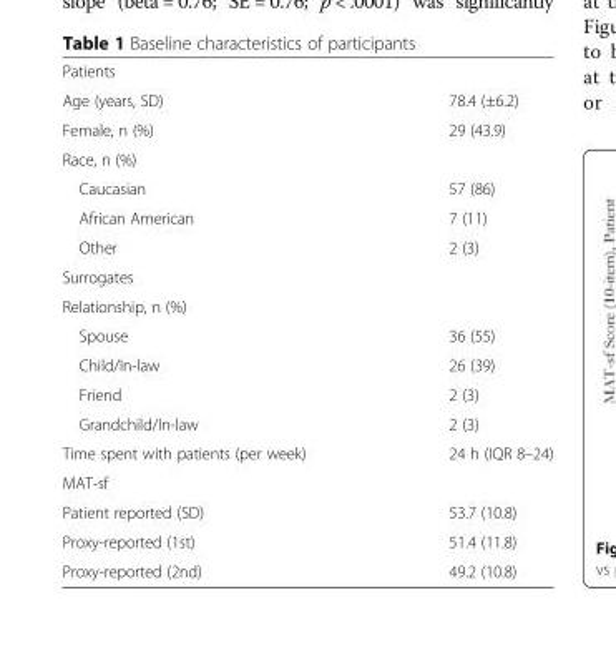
<table><tbody><tr><td colspan="2">Patients</td></tr><tr><td>Age (years, SD)</td><td>78.4 (±6.2)</td></tr><tr><td>Female, n (%)</td><td>29 (43.9)</td></tr><tr><td colspan="2">Race, n (%)</td></tr><tr><td>Caucasian</td><td>57 (86)</td></tr><tr><td>African American</td><td>7 (11)</td></tr><tr><td>Other</td><td>2 (3)</td></tr><tr><td colspan="2">Surrogates</td></tr><tr><td colspan="2">Relationship, n (%)</td></tr><tr><td>Spouse</td><td>36 (55)</td></tr><tr><td>Child/In-law</td><td>26 (39)</td></tr><tr><td>Friend</td><td>2 (3)</td></tr><tr><td>Grandchild/In-law</td><td>2 (3)</td></tr><tr><td>Time spent with patients (per week)</td><td>24 h (IQR 8–24)</td></tr><tr><td colspan="2">MAT-sf</td></tr><tr><td>Patient reported (SD)</td><td>53.7 (10.8)</td></tr><tr><td>Proxy-reported (1st)</td><td>51.4 (11.8)</td></tr><tr><td>Proxy-reported (2nd)</td><td>49.2 (10.8)</td></tr></tbody></table>